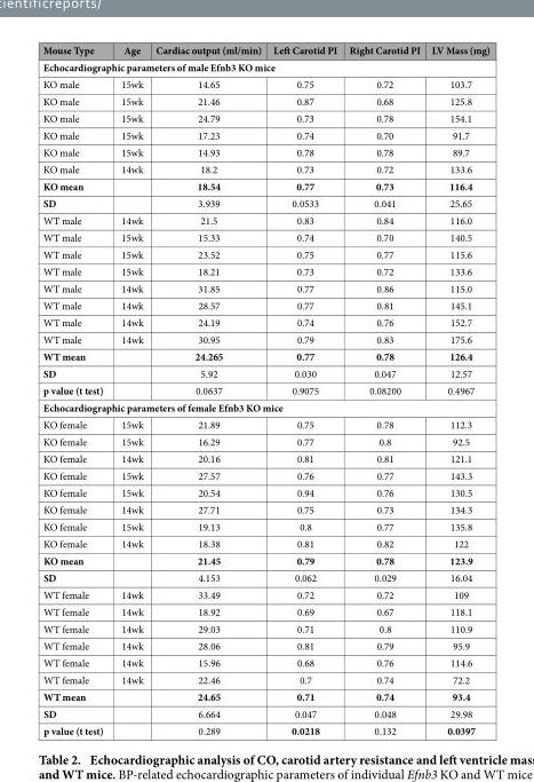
<table><thead><tr><td>Mouse Type</td><td>Age</td><td>Cardiac output (ml/min)</td><td>Left Carotid PI</td><td>Right Carotid PI</td><td>LV Mass (mg)</td></tr></thead><tbody><tr><td colspan="6">Echocardiographic parameters of male Efnb3 KO mice</td></tr><tr><td>KO male</td><td>15wk</td><td>14.65</td><td>0.75</td><td>0.72</td><td>103.7</td></tr><tr><td>KO male</td><td>15wk</td><td>21.46</td><td>0.87</td><td>0.68</td><td>125.8</td></tr><tr><td>KO male</td><td>15wk</td><td>24.79</td><td>0.73</td><td>0.78</td><td>154.1</td></tr><tr><td>KO male</td><td>15wk</td><td>17.23</td><td>0.74</td><td>0.70</td><td>91.7</td></tr><tr><td>KO male</td><td>15wk</td><td>14.93</td><td>0.78</td><td>0.78</td><td>89.7</td></tr><tr><td>KO male</td><td>14wk</td><td>18.2</td><td>0.73</td><td>0.72</td><td>133.6</td></tr><tr><td>KO mean</td><td></td><td>18.54</td><td>0.77</td><td>0.73</td><td>116.4</td></tr><tr><td>SD</td><td></td><td>3.939</td><td>0.0533</td><td>0.041</td><td>25.65</td></tr><tr><td>WT male</td><td>14wk</td><td>21.5</td><td>0.83</td><td>0.84</td><td>116.0</td></tr><tr><td>WT male</td><td>15wk</td><td>15.33</td><td>0.74</td><td>0.70</td><td>140.5</td></tr><tr><td>WT male</td><td>15wk</td><td>23.52</td><td>0.75</td><td>0.77</td><td>115.6</td></tr><tr><td>WT male</td><td>15wk</td><td>18.21</td><td>0.73</td><td>0.72</td><td>133.6</td></tr><tr><td>WT male</td><td>14wk</td><td>31.85</td><td>0.77</td><td>0.86</td><td>115.0</td></tr><tr><td>WT male</td><td>14wk</td><td>28.57</td><td>0.77</td><td>0.81</td><td>145.1</td></tr><tr><td>WT male</td><td>14wk</td><td>24.19</td><td>0.74</td><td>0.76</td><td>152.7</td></tr><tr><td>WT male</td><td>14wk</td><td>30.95</td><td>0.79</td><td>0.83</td><td>175.6</td></tr><tr><td>WT mean</td><td></td><td>24.265</td><td>0.77</td><td>0.78</td><td>126.4</td></tr><tr><td>SD</td><td></td><td>5.92</td><td>0.030</td><td>0.047</td><td>12.57</td></tr><tr><td>p value (t test)</td><td></td><td>0.0637</td><td>0.9075</td><td>0.08200</td><td>0.4967</td></tr><tr><td colspan="6">Echocardiographic parameters of female Efnb3 KO mice</td></tr><tr><td>KO female</td><td>15wk</td><td>21.89</td><td>0.75</td><td>0.78</td><td>112.3</td></tr><tr><td>KO female</td><td>15wk</td><td>16.29</td><td>0.77</td><td>0.8</td><td>92.5</td></tr><tr><td>KO female</td><td>14wk</td><td>20.16</td><td>0.81</td><td>0.81</td><td>121.1</td></tr><tr><td>KO female</td><td>15wk</td><td>27.57</td><td>0.76</td><td>0.77</td><td>143.3</td></tr><tr><td>KO female</td><td>15wk</td><td>20.54</td><td>0.94</td><td>0.76</td><td>130.5</td></tr><tr><td>KO female</td><td>14wk</td><td>27.71</td><td>0.75</td><td>0.73</td><td>134.3</td></tr><tr><td>KO female</td><td>15wk</td><td>19.13</td><td>0.8</td><td>0.77</td><td>135.8</td></tr><tr><td>KO female</td><td>14wk</td><td>18.38</td><td>0.81</td><td>0.82</td><td>122</td></tr><tr><td>KO mean</td><td></td><td>21.45</td><td>0.79</td><td>0.78</td><td>123.9</td></tr><tr><td>SD</td><td></td><td>4.153</td><td>0.062</td><td>0.029</td><td>16.04</td></tr><tr><td>WT female</td><td>14wk</td><td>33.49</td><td>0.72</td><td>0.72</td><td>109</td></tr><tr><td>WT female</td><td>14wk</td><td>18.92</td><td>0.69</td><td>0.67</td><td>118.1</td></tr><tr><td>WT female</td><td>14wk</td><td>29.03</td><td>0.71</td><td>0.8</td><td>110.9</td></tr><tr><td>WT female</td><td>14wk</td><td>28.06</td><td>0.81</td><td>0.79</td><td>95.9</td></tr><tr><td>WT female</td><td>14wk</td><td>15.96</td><td>0.68</td><td>0.76</td><td>114.6</td></tr><tr><td>WT female</td><td>14wk</td><td>22.46</td><td>0.7</td><td>0.74</td><td>72.2</td></tr><tr><td>WT mean</td><td></td><td>24.65</td><td>0.71</td><td>0.74</td><td>93.4</td></tr><tr><td>SD</td><td></td><td>6.664</td><td>0.047</td><td>0.048</td><td>29.98</td></tr><tr><td>p value (t test)</td><td></td><td>0.289</td><td>0.0218</td><td>0.132</td><td>0.0397</td></tr></tbody></table>